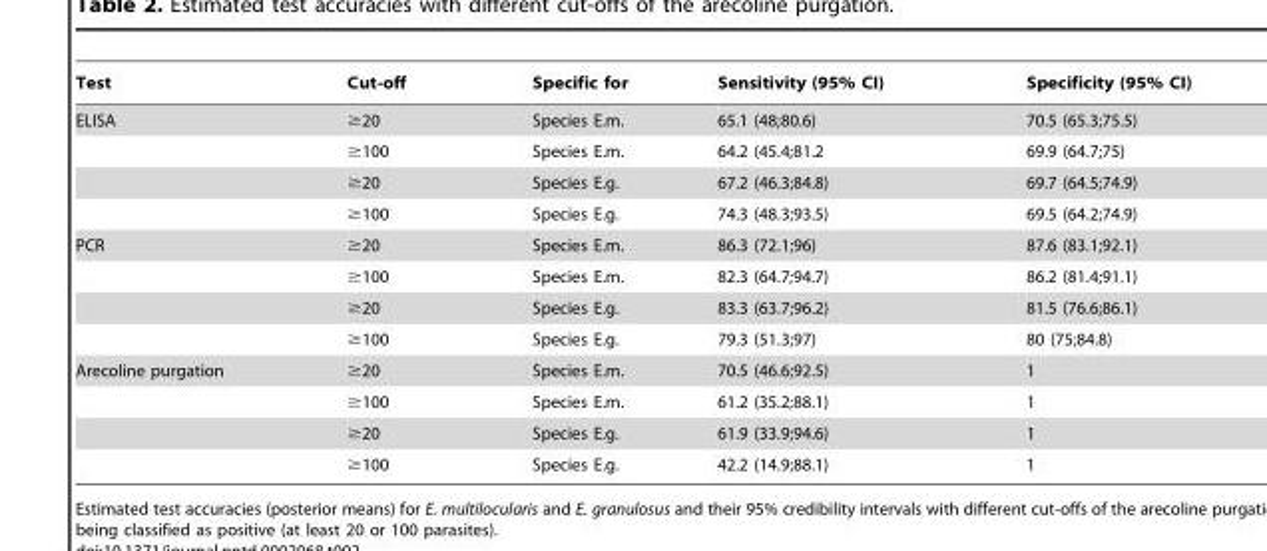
<table><thead><tr><td>Test</td><td>Cut-off</td><td>Specific for</td><td>Sensitivity (95% CI)</td><td>Specificity (95% CI)</td></tr></thead><tbody><tr><td rowspan="4">ELISA</td><td>≥20</td><td>Species E.m.</td><td>65.1 (48;80.6)</td><td>70.5 (65.3;75.5)</td></tr><tr><td>≥100</td><td>Species E.m.</td><td>64.2 (45.4;81.2</td><td>69.9 (64.7;75)</td></tr><tr><td>≥20</td><td>Species E.g.</td><td>67.2 (46.3;84.8)</td><td>69.7 (64.5;74.9)</td></tr><tr><td>≥100</td><td>Species E.g.</td><td>74.3 (48.3;93.5)</td><td>69.5 (64.2;74.9)</td></tr><tr><td rowspan="4">PCR</td><td>≥20</td><td>Species E.m.</td><td>86.3 (72.1;96)</td><td>87.6 (83.1;92.1)</td></tr><tr><td>≥100</td><td>Species E.m.</td><td>82.3 (64.7;94.7)</td><td>86.2 (81.4;91.1)</td></tr><tr><td>≥20</td><td>Species E.g.</td><td>83.3 (63.7;96.2)</td><td>81.5 (76.6;86.1)</td></tr><tr><td>≥100</td><td>Species E.g.</td><td>79.3 (51.3;97)</td><td>80 (75;84.8)</td></tr><tr><td rowspan="4">Arecoline purgation</td><td>≥20</td><td>Species E.m.</td><td>70.5 (46.6;92.5)</td><td>1</td></tr><tr><td>≥100</td><td>Species E.m.</td><td>61.2 (35.2;88.1)</td><td>1</td></tr><tr><td>≥20</td><td>Species E.g.</td><td>61.9 (33.9;94.6)</td><td>1</td></tr><tr><td>≥100</td><td>Species E.g.</td><td>42.2 (14.9;88.1)</td><td>1</td></tr></tbody></table>